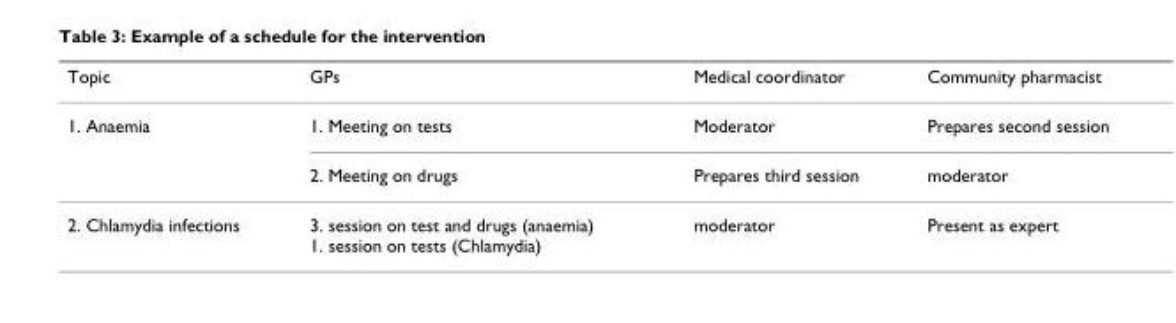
<table><thead><tr><td>Topic</td><td>GPs</td><td>Medical coordinator</td><td>Community pharmacist</td></tr></thead><tbody><tr><td rowspan="2">1. Anaemia</td><td>1. Meeting on tests</td><td>Moderator</td><td>Prepares second session</td></tr><tr><td>2. Meeting on drugs</td><td>Prepares third session</td><td>moderator</td></tr><tr><td>2. Chlamydia infections</td><td>3. session on test and drugs (anaemia) 1. session on tests (Chlamydia)</td><td>moderator</td><td>Present as expert</td></tr></tbody></table>